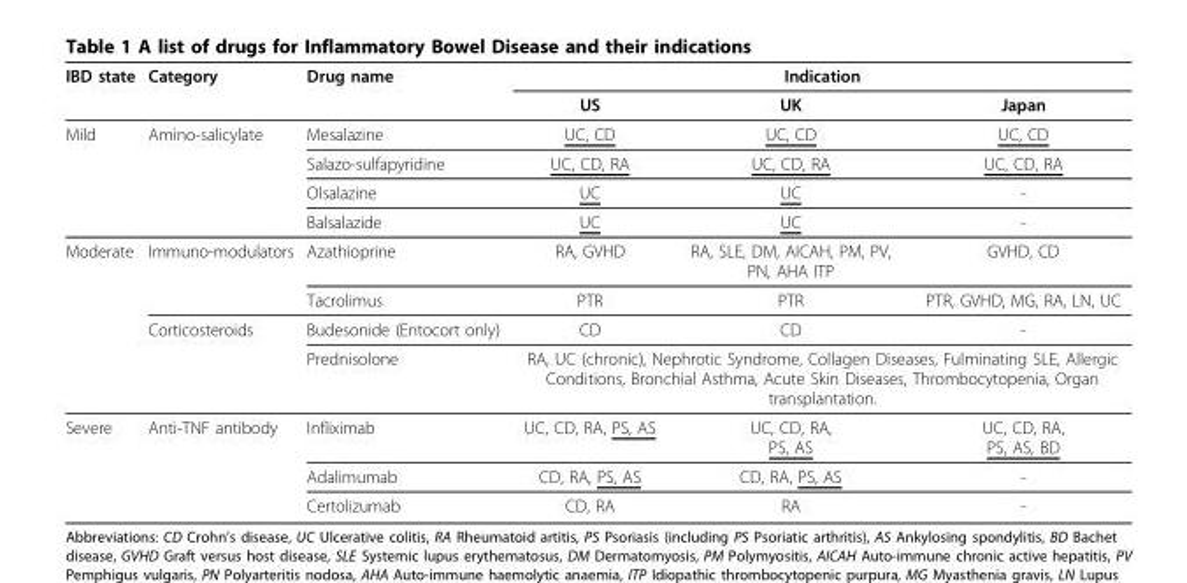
<table><thead><tr><td rowspan="2">IBD state</td><td rowspan="2">Category</td><td rowspan="2">Drug name</td><td colspan="3">Indication</td></tr><tr><td>US</td><td>UK</td><td>Japan</td></tr></thead><tbody><tr><td rowspan="4">Mild</td><td>Amino-salicylate</td><td>Mesalazine</td><td>UC, CD</td><td>UC, CD</td><td>UC, CD</td></tr><tr><td></td><td>Salazo-sulfapyridine</td><td>UC, CD, RA</td><td>UC, CD, RA</td><td>UC, CD, RA</td></tr><tr><td></td><td>Olsalazine</td><td>UC</td><td>UC</td><td>-</td></tr><tr><td></td><td>Balsalazide</td><td>UC</td><td>UC</td><td>-</td></tr><tr><td rowspan="4">Moderate</td><td>Immuno-modulators</td><td>Azathioprine</td><td>RA, GVHD</td><td>RA, SLE, DM, AICAH, PM, PV, PN, AHA ITP</td><td>GVHD, CD</td></tr><tr><td></td><td>Tacrolimus</td><td>PTR</td><td>PTR</td><td>PTR, GVHD, MG, RA, LN, UC</td></tr><tr><td>Corticosteroids</td><td>Budesonide (Entocort only)</td><td>CD</td><td>CD</td><td>-</td></tr><tr><td></td><td>Prednisolone</td><td colspan="3">RA, UC (chronic), Nephrotic Syndrome, Collagen Diseases, Fulminating SLE, Allergic Conditions, Bronchial Asthma, Acute Skin Diseases, Thrombocytopenia, Organ transplantation.</td></tr><tr><td rowspan="3">Severe</td><td>Anti-TNF antibody</td><td>Infliximab</td><td>UC, CD, RA, PS, AS</td><td>UC, CD, RA, PS, AS</td><td>UC, CD, RA, PS, AS, BD</td></tr><tr><td></td><td>Adalimumab</td><td>CD, RA, PS, AS</td><td>CD, RA, PS, AS</td><td>-</td></tr><tr><td></td><td>Certolizumab</td><td>CD, RA</td><td>RA</td><td>-</td></tr></tbody></table>